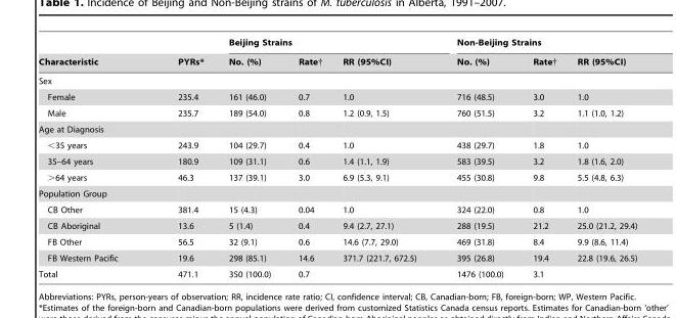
<table><thead><tr><td rowspan="2">Characteristic</td><td rowspan="2">PYRs*</td><td colspan="3">Beijing Strains</td><td colspan="3">Non-Beijing Strains</td></tr><tr><td>No. (%)</td><td>Rate†</td><td>RR (95%CI)</td><td>No. (%)</td><td>Rate†</td><td>RR (95%CI)</td></tr></thead><tbody><tr><td colspan="8">Sex</td></tr><tr><td>Female</td><td>235.4</td><td>161 (46.0)</td><td>0.7</td><td>1.0</td><td>716 (48.5)</td><td>3.0</td><td>1.0</td></tr><tr><td>Male</td><td>235.7</td><td>189 (54.0)</td><td>0.8</td><td>1.2 (0.9, 1.5)</td><td>760 (51.5)</td><td>3.2</td><td>1.1 (1.0, 1.2)</td></tr><tr><td colspan="8">Age at Diagnosis</td></tr><tr><td>&lt;35 years</td><td>243.9</td><td>104 (29.7)</td><td>0.4</td><td>1.0</td><td>438 (29.7)</td><td>1.8</td><td>1.0</td></tr><tr><td>35–64 years</td><td>180.9</td><td>109 (31.1)</td><td>0.6</td><td>1.4 (1.1, 1.9)</td><td>583 (39.5)</td><td>3.2</td><td>1.8 (1.6, 2.0)</td></tr><tr><td>&gt;64 years</td><td>46.3</td><td>137 (39.1)</td><td>3.0</td><td>6.9 (5.3, 9.1)</td><td>455 (30.8)</td><td>9.8</td><td>5.5 (4.8, 6.3)</td></tr><tr><td colspan="8">Population Group</td></tr><tr><td>CB Other</td><td>381.4</td><td>15 (4.3)</td><td>0.04</td><td>1.0</td><td>324 (22.0)</td><td>0.8</td><td>1.0</td></tr><tr><td>CB Aboriginal</td><td>13.6</td><td>5 (1.4)</td><td>0.4</td><td>9.4 (2.7, 27.1)</td><td>288 (19.5)</td><td>21.2</td><td>25.0 (21.2, 29.4)</td></tr><tr><td>FB Other</td><td>56.5</td><td>32 (9.1)</td><td>0.6</td><td>14.6 (7.7, 29.0)</td><td>469 (31.8)</td><td>8.4</td><td>9.9 (8.6, 11.4)</td></tr><tr><td>FB Western Pacific</td><td>19.6</td><td>298 (85.1)</td><td>14.6</td><td>371.7 (221.7, 672.5)</td><td>395 (26.8)</td><td>19.4</td><td>22.8 (19.6, 26.5)</td></tr><tr><td>Total</td><td>471.1</td><td>350 (100.0)</td><td>0.7</td><td></td><td>1476 (100.0)</td><td>3.1</td><td></td></tr></tbody></table>